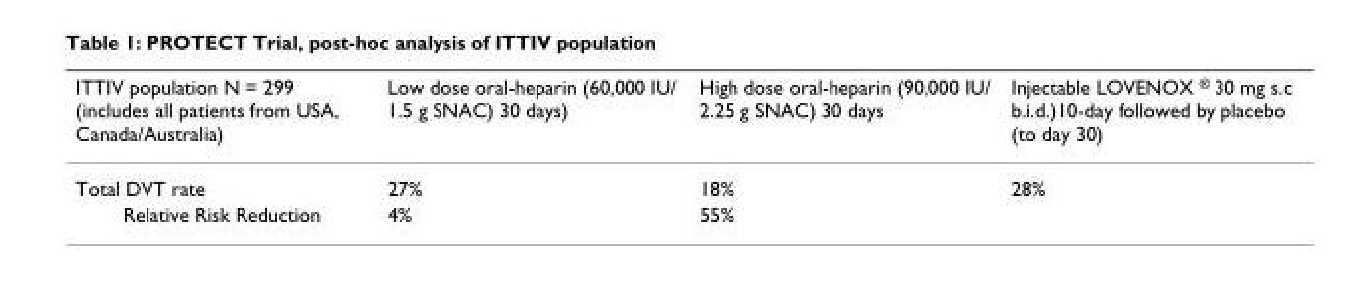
<table><thead><tr><td>ITTIV population N = 299 (includes all patients from USA, Canada/Australia)</td><td>Low dose oral-heparin (60,000 IU/ 1.5 g SNAC) 30 days)</td><td>High dose oral-heparin (90,000 IU/ 2.25 g SNAC) 30 days</td><td>Injectable LOVENOX <sup>®</sup> 30 mg s.c b.i.d.)10-day followed by placebo (to day 30)</td></tr></thead><tbody><tr><td>Total DVT rate</td><td>27%</td><td>18%</td><td>28%</td></tr><tr><td>Relative Risk Reduction</td><td>4%</td><td>55%</td><td></td></tr></tbody></table>